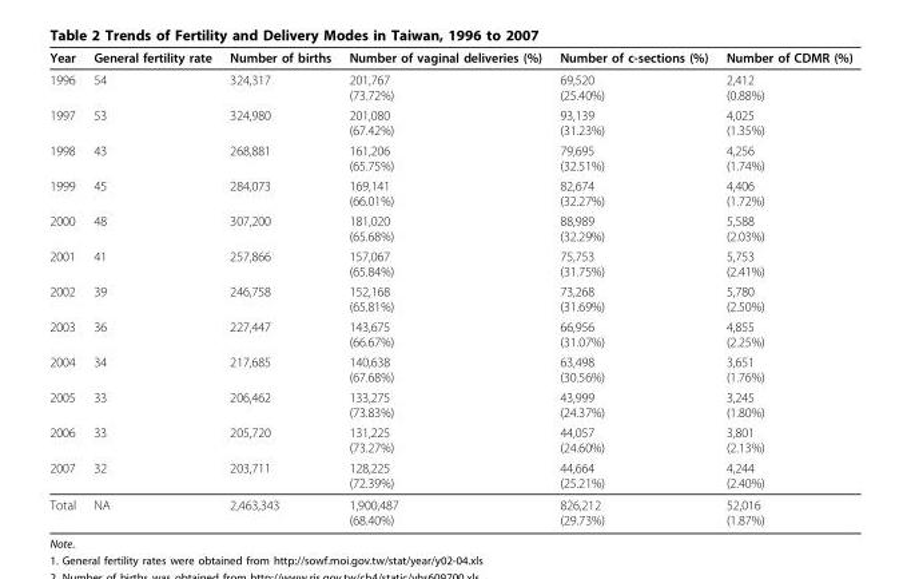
<table><thead><tr><td>Year</td><td>General fertility rate</td><td>Number of births</td><td>Number of vaginal deliveries (%)</td><td>Number of c-sections (%)</td><td>Number of CDMR (%)</td></tr></thead><tbody><tr><td>1996</td><td>54</td><td>324,317</td><td>201,767 (73.72%)</td><td>69,520 (25.40%)</td><td>2,412 (0.88%)</td></tr><tr><td>1997</td><td>53</td><td>324,980</td><td>201,080 (67.42%)</td><td>93,139 (31.23%)</td><td>4,025 (1.35%)</td></tr><tr><td>1998</td><td>43</td><td>268,881</td><td>161,206 (65.75%)</td><td>79,695 (32.51%)</td><td>4,256 (1.74%)</td></tr><tr><td>1999</td><td>45</td><td>284,073</td><td>169,141 (66.01%)</td><td>82,674 (32.27%)</td><td>4,406 (1.72%)</td></tr><tr><td>2000</td><td>48</td><td>307,200</td><td>181,020 (65.68%)</td><td>88,989 (32.29%)</td><td>5,588 (2.03%)</td></tr><tr><td>2001</td><td>41</td><td>257,866</td><td>157,067 (65.84%)</td><td>75,753 (31.75%)</td><td>5,753 (2.41%)</td></tr><tr><td>2002</td><td>39</td><td>246,758</td><td>152,168 (65.81%)</td><td>73,268 (31.69%)</td><td>5,780 (2.50%)</td></tr><tr><td>2003</td><td>36</td><td>227,447</td><td>143,675 (66.67%)</td><td>66,956 (31.07%)</td><td>4,855 (2.25%)</td></tr><tr><td>2004</td><td>34</td><td>217,685</td><td>140,638 (67.68%)</td><td>63,498 (30.56%)</td><td>3,651 (1.76%)</td></tr><tr><td>2005</td><td>33</td><td>206,462</td><td>133,275 (73.83%)</td><td>43,999 (24.37%)</td><td>3,245 (1.80%)</td></tr><tr><td>2006</td><td>33</td><td>205,720</td><td>131,225 (73.27%)</td><td>44,057 (24.60%)</td><td>3,801 (2.13%)</td></tr><tr><td>2007</td><td>32</td><td>203,711</td><td>128,225 (72.39%)</td><td>44,664 (25.21%)</td><td>4,244 (2.40%)</td></tr><tr><td>Total</td><td>NA</td><td>2,463,343</td><td>1,900,487 (68.40%)</td><td>826,212 (29.73%)</td><td>52,016 (1.87%)</td></tr></tbody></table>